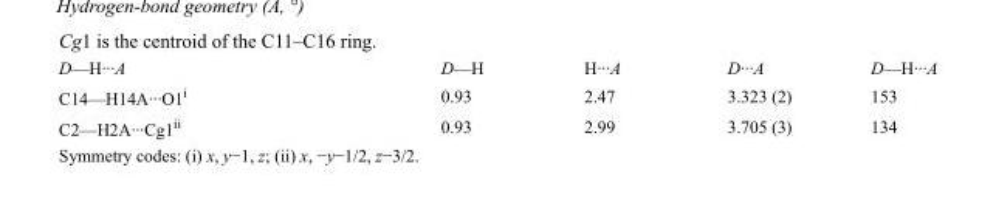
<table><tbody><tr><td>D—H···A</td><td>D—H</td><td>H···A</td><td>D···A</td><td>D—H···A</td></tr><tr><td>C14—H14A···O1<sup>i</sup></td><td>0.93</td><td>2.47</td><td>3.323 (2)</td><td>153</td></tr><tr><td>C2—H2A···Cg1<sup>ii</sup></td><td>0.93</td><td>2.99</td><td>3.705 (3)</td><td>134</td></tr></tbody></table>